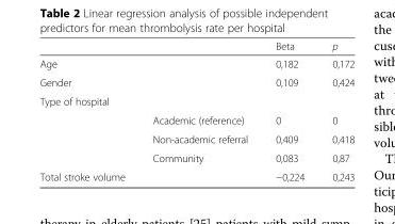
<table><thead><tr><td></td><td></td><td>Beta</td><td>p</td></tr></thead><tbody><tr><td>Age</td><td></td><td>0,182</td><td>0,172</td></tr><tr><td>Gender</td><td></td><td>0,109</td><td>0,424</td></tr><tr><td colspan="4">Type of hospital</td></tr><tr><td></td><td>Academic (reference)</td><td>0</td><td>0</td></tr><tr><td></td><td>Non-academic referral</td><td>0,409</td><td>0,418</td></tr><tr><td></td><td>Community</td><td>0,083</td><td>0,87</td></tr><tr><td>Total stroke volume</td><td></td><td>−0,224</td><td>0,243</td></tr></tbody></table>